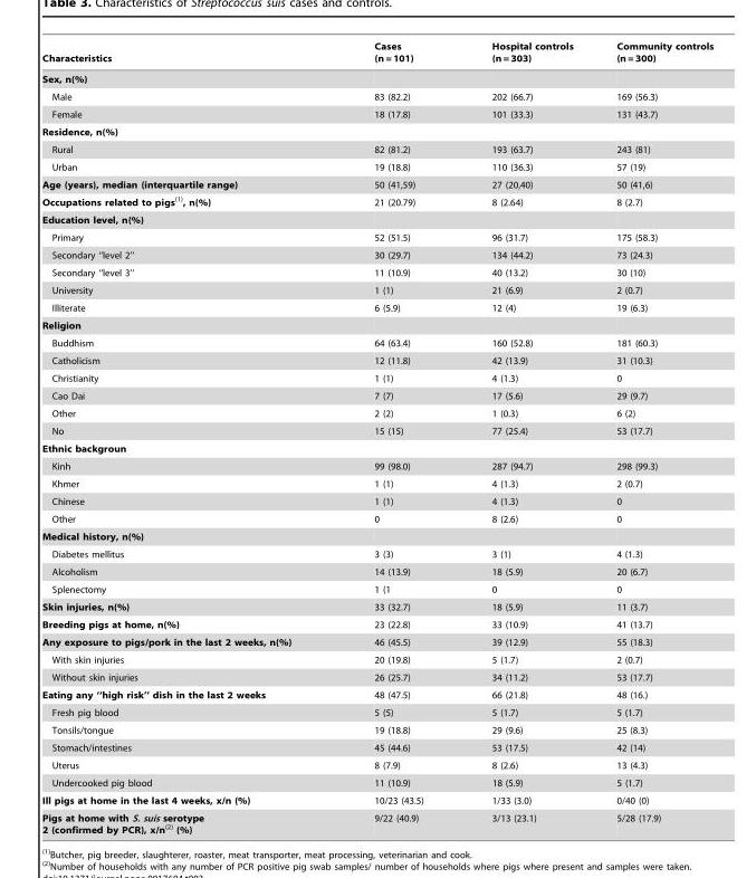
<table><thead><tr><td>Characteristics</td><td>Cases (n = 101)</td><td>Hospital controls (n = 303)</td><td>Community controls (n = 300)</td></tr></thead><tbody><tr><td colspan="4">Sex, n(%)</td></tr><tr><td>Male</td><td>83 (82.2)</td><td>202 (66.7)</td><td>169 (56.3)</td></tr><tr><td>Female</td><td>18 (17.8)</td><td>101 (33.3)</td><td>131 (43.7)</td></tr><tr><td colspan="4">Residence, n(%)</td></tr><tr><td>Rural</td><td>82 (81.2)</td><td>193 (63.7)</td><td>243 (81)</td></tr><tr><td>Urban</td><td>19 (18.8)</td><td>110 (36.3)</td><td>57 (19)</td></tr><tr><td>Age (years), median (interquartile range)</td><td>50 (41,59)</td><td>27 (20,40)</td><td>50 (41,6)</td></tr><tr><td>Occupations related to pigs(1), n(%)</td><td>21 (20.79)</td><td>8 (2.64)</td><td>8 (2.7)</td></tr><tr><td colspan="4">Education level, n(%)</td></tr><tr><td>Primary</td><td>52 (51.5)</td><td>96 (31.7)</td><td>175 (58.3)</td></tr><tr><td>Secondary ‘‘level 2’’</td><td>30 (29.7)</td><td>134 (44.2)</td><td>73 (24.3)</td></tr><tr><td>Secondary ‘‘level 3’’</td><td>11 (10.9)</td><td>40 (13.2)</td><td>30 (10)</td></tr><tr><td>University</td><td>1 (1)</td><td>21 (6.9)</td><td>2 (0.7)</td></tr><tr><td>Illiterate</td><td>6 (5.9)</td><td>12 (4)</td><td>19 (6.3)</td></tr><tr><td colspan="4">Religion</td></tr><tr><td>Buddhism</td><td>64 (63.4)</td><td>160 (52.8)</td><td>181 (60.3)</td></tr><tr><td>Catholicism</td><td>12 (11.8)</td><td>42 (13.9)</td><td>31 (10.3)</td></tr><tr><td>Christianity</td><td>1 (1)</td><td>4 (1.3)</td><td>0</td></tr><tr><td>Cao Dai</td><td>7 (7)</td><td>17 (5.6)</td><td>29 (9.7)</td></tr><tr><td>Other</td><td>2 (2)</td><td>1 (0.3)</td><td>6 (2)</td></tr><tr><td>No</td><td>15 (15)</td><td>77 (25.4)</td><td>53 (17.7)</td></tr><tr><td colspan="4">Ethnic backgroun</td></tr><tr><td>Kinh</td><td>99 (98.0)</td><td>287 (94.7)</td><td>298 (99.3)</td></tr><tr><td>Khmer</td><td>1 (1)</td><td>4 (1.3)</td><td>2 (0.7)</td></tr><tr><td>Chinese</td><td>1 (1)</td><td>4 (1.3)</td><td>0</td></tr><tr><td>Other</td><td>0</td><td>8 (2.6)</td><td>0</td></tr><tr><td colspan="4">Medical history, n(%)</td></tr><tr><td>Diabetes mellitus</td><td>3 (3)</td><td>3 (1)</td><td>4 (1.3)</td></tr><tr><td>Alcoholism</td><td>14 (13.9)</td><td>18 (5.9)</td><td>20 (6.7)</td></tr><tr><td>Splenectomy</td><td>1 (1</td><td>0</td><td>0</td></tr><tr><td>Skin injuries, n(%)</td><td>33 (32.7)</td><td>18 (5.9)</td><td>11 (3.7)</td></tr><tr><td>Breeding pigs at home, n(%)</td><td>23 (22.8)</td><td>33 (10.9)</td><td>41 (13.7)</td></tr><tr><td>Any exposure to pigs/pork in the last 2 weeks, n(%)</td><td>46 (45.5)</td><td>39 (12.9)</td><td>55 (18.3)</td></tr><tr><td>With skin injuries</td><td>20 (19.8)</td><td>5 (1.7)</td><td>2 (0.7)</td></tr><tr><td>Without skin injuries</td><td>26 (25.7)</td><td>34 (11.2)</td><td>53 (17.7)</td></tr><tr><td>Eating any ‘‘high risk’’ dish in the last 2 weeks</td><td>48 (47.5)</td><td>66 (21.8)</td><td>48 (16.)</td></tr><tr><td>Fresh pig blood</td><td>5 (5)</td><td>5 (1.7)</td><td>5 (1.7)</td></tr><tr><td>Tonsils/tongue</td><td>19 (18.8)</td><td>29 (9.6)</td><td>25 (8.3)</td></tr><tr><td>Stomach/intestines</td><td>45 (44.6)</td><td>53 (17.5)</td><td>42 (14)</td></tr><tr><td>Uterus</td><td>8 (7.9)</td><td>8 (2.6)</td><td>13 (4.3)</td></tr><tr><td>Undercooked pig blood</td><td>11 (10.9)</td><td>18 (5.9)</td><td>5 (1.7)</td></tr><tr><td>Ill pigs at home in the last 4 weeks, x/n (%)</td><td>10/23 (43.5)</td><td>1/33 (3.0)</td><td>0/40 (0)</td></tr><tr><td>Pigs at home with S. suis serotype 2 (confirmed by PCR), x/n(2) (%)</td><td>9/22 (40.9)</td><td>3/13 (23.1)</td><td>5/28 (17.9)</td></tr></tbody></table>